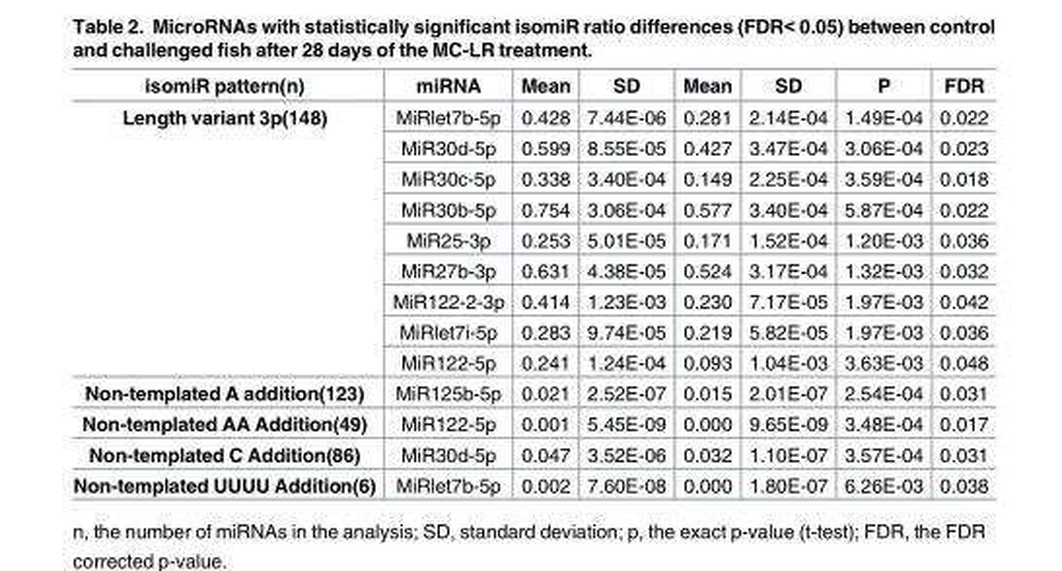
<table><thead><tr><td>isomiR pattern(n)</td><td>miRNA</td><td>Mean</td><td>SD</td><td>Mean</td><td>SD</td><td>P</td><td>FDR</td></tr></thead><tbody><tr><td rowspan="9">Length variant 3p(148)</td><td>MiRlet7b-5p</td><td>0.428</td><td>7.44E-06</td><td>0.281</td><td>2.14E-04</td><td>1.49E-04</td><td>0.022</td></tr><tr><td>MiR30d-5p</td><td>0.599</td><td>8.55E-05</td><td>0.427</td><td>3.47E-04</td><td>3.06E-04</td><td>0.023</td></tr><tr><td>MiR30c-5p</td><td>0.338</td><td>3.40E-04</td><td>0.149</td><td>2.25E-04</td><td>3.59E-04</td><td>0.018</td></tr><tr><td>MiR30b-5p</td><td>0.754</td><td>3.06E-04</td><td>0.577</td><td>3.40E-04</td><td>5.87E-04</td><td>0.022</td></tr><tr><td>MiR25-3p</td><td>0.253</td><td>5.01E-05</td><td>0.171</td><td>1.52E-04</td><td>1.20E-03</td><td>0.036</td></tr><tr><td>MiR27b-3p</td><td>0.631</td><td>4.38E-05</td><td>0.524</td><td>3.17E-04</td><td>1.32E-03</td><td>0.032</td></tr><tr><td>MiR122-2-3p</td><td>0.414</td><td>1.23E-03</td><td>0.230</td><td>7.17E-05</td><td>1.97E-03</td><td>0.042</td></tr><tr><td>MiRlet7i-5p</td><td>0.283</td><td>9.74E-05</td><td>0.219</td><td>5.82E-05</td><td>1.97E-03</td><td>0.036</td></tr><tr><td>MiR122-5p</td><td>0.241</td><td>1.24E-04</td><td>0.093</td><td>1.04E-03</td><td>3.63E-03</td><td>0.048</td></tr><tr><td>Non-templated A addition(123)</td><td>MiR125b-5p</td><td>0.021</td><td>2.52E-07</td><td>0.015</td><td>2.01E-07</td><td>2.54E-04</td><td>0.031</td></tr><tr><td>Non-templated AA Addition(49)</td><td>MiR122-5p</td><td>0.001</td><td>5.45E-09</td><td>0.000</td><td>9.65E-09</td><td>3.48E-04</td><td>0.017</td></tr><tr><td>Non-templated C Addition(86)</td><td>MiR30d-5p</td><td>0.047</td><td>3.52E-06</td><td>0.032</td><td>1.10E-07</td><td>3.57E-04</td><td>0.031</td></tr><tr><td>Non-templated UUUU Addition(6)</td><td>MiRlet7b-5p</td><td>0.002</td><td>7.60E-08</td><td>0.000</td><td>1.80E-07</td><td>6.26E-03</td><td>0.038</td></tr></tbody></table>